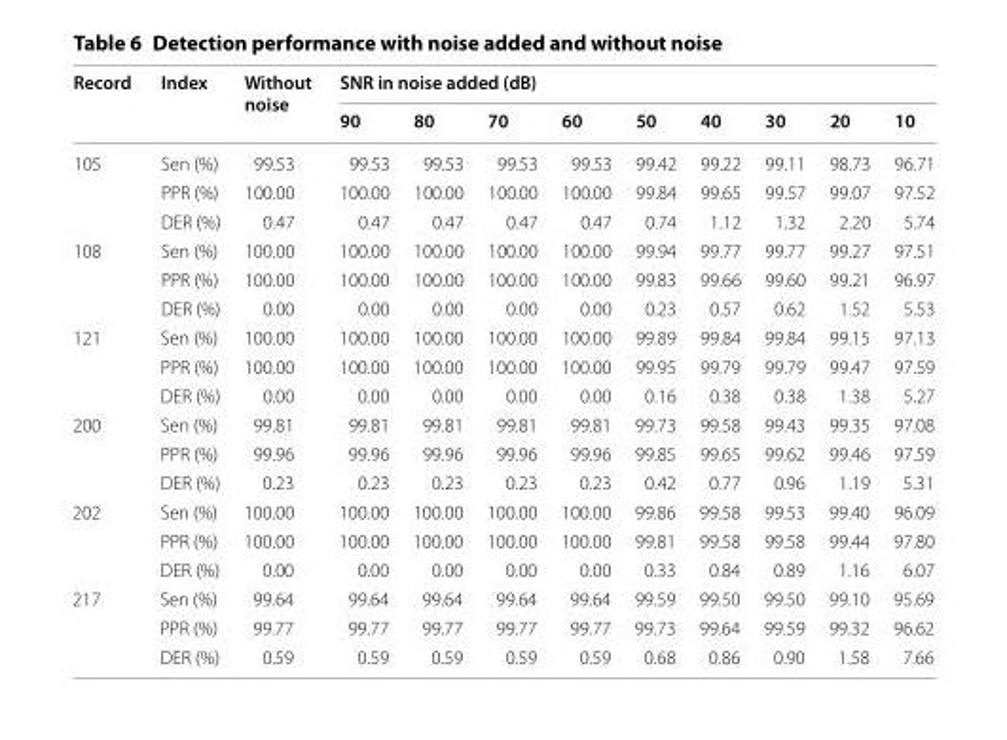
<table><thead><tr><td rowspan="2">Record</td><td rowspan="2">Index</td><td rowspan="2">Without noise</td><td colspan="9">SNR in noise added (dB)</td></tr><tr><td>90</td><td>80</td><td>70</td><td>60</td><td>50</td><td>40</td><td>30</td><td>20</td><td>10</td></tr></thead><tbody><tr><td rowspan="3">105</td><td>Sen (%)</td><td>99.53</td><td>99.53</td><td>99.53</td><td>99.53</td><td>99.53</td><td>99.42</td><td>99.22</td><td>99.11</td><td>98.73</td><td>96.71</td></tr><tr><td>PPR (%)</td><td>100.00</td><td>100.00</td><td>100.00</td><td>100.00</td><td>100.00</td><td>99.84</td><td>99.65</td><td>99.57</td><td>99.07</td><td>97.52</td></tr><tr><td>DER (%)</td><td>0.47</td><td>0.47</td><td>0.47</td><td>0.47</td><td>0.47</td><td>0.74</td><td>1.12</td><td>1.32</td><td>2.20</td><td>5.74</td></tr><tr><td rowspan="3">108</td><td>Sen (%)</td><td>100.00</td><td>100.00</td><td>100.00</td><td>100.00</td><td>100.00</td><td>99.94</td><td>99.77</td><td>99.77</td><td>99.27</td><td>97.51</td></tr><tr><td>PPR (%)</td><td>100.00</td><td>100.00</td><td>100.00</td><td>100.00</td><td>100.00</td><td>99.83</td><td>99.66</td><td>99.60</td><td>99.21</td><td>96.97</td></tr><tr><td>DER (%)</td><td>0.00</td><td>0.00</td><td>0.00</td><td>0.00</td><td>0.00</td><td>0.23</td><td>0.57</td><td>0.62</td><td>1.52</td><td>5.53</td></tr><tr><td rowspan="3">121</td><td>Sen (%)</td><td>100.00</td><td>100.00</td><td>100.00</td><td>100.00</td><td>100.00</td><td>99.89</td><td>99.84</td><td>99.84</td><td>99.15</td><td>97.13</td></tr><tr><td>PPR (%)</td><td>100.00</td><td>100.00</td><td>100.00</td><td>100.00</td><td>100.00</td><td>99.95</td><td>99.79</td><td>99.79</td><td>99.47</td><td>97.59</td></tr><tr><td>DER (%)</td><td>0.00</td><td>0.00</td><td>0.00</td><td>0.00</td><td>0.00</td><td>0.16</td><td>0.38</td><td>0.38</td><td>1.38</td><td>5.27</td></tr><tr><td rowspan="3">200</td><td>Sen (%)</td><td>99.81</td><td>99.81</td><td>99.81</td><td>99.81</td><td>99.81</td><td>99.73</td><td>99.58</td><td>99.43</td><td>99.35</td><td>97.08</td></tr><tr><td>PPR (%)</td><td>99.96</td><td>99.96</td><td>99.96</td><td>99.96</td><td>99.96</td><td>99.85</td><td>99.65</td><td>99.62</td><td>99.46</td><td>97.59</td></tr><tr><td>DER (%)</td><td>0.23</td><td>0.23</td><td>0.23</td><td>0.23</td><td>0.23</td><td>0.42</td><td>0.77</td><td>0.96</td><td>1.19</td><td>5.31</td></tr><tr><td rowspan="3">202</td><td>Sen (%)</td><td>100.00</td><td>100.00</td><td>100.00</td><td>100.00</td><td>100.00</td><td>99.86</td><td>99.58</td><td>99.53</td><td>99.40</td><td>96.09</td></tr><tr><td>PPR (%)</td><td>100.00</td><td>100.00</td><td>100.00</td><td>100.00</td><td>100.00</td><td>99.81</td><td>99.58</td><td>99.58</td><td>99.44</td><td>97.80</td></tr><tr><td>DER (%)</td><td>0.00</td><td>0.00</td><td>0.00</td><td>0.00</td><td>0.00</td><td>0.33</td><td>0.84</td><td>0.89</td><td>1.16</td><td>6.07</td></tr><tr><td rowspan="3">217</td><td>Sen (%)</td><td>99.64</td><td>99.64</td><td>99.64</td><td>99.64</td><td>99.64</td><td>99.59</td><td>99.50</td><td>99.50</td><td>99.10</td><td>95.69</td></tr><tr><td>PPR (%)</td><td>99.77</td><td>99.77</td><td>99.77</td><td>99.77</td><td>99.77</td><td>99.73</td><td>99.64</td><td>99.59</td><td>99.32</td><td>96.62</td></tr><tr><td>DER (%)</td><td>0.59</td><td>0.59</td><td>0.59</td><td>0.59</td><td>0.59</td><td>0.68</td><td>0.86</td><td>0.90</td><td>1.58</td><td>7.66</td></tr></tbody></table>